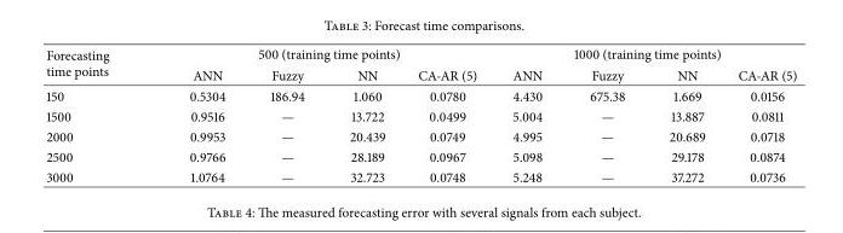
<table><thead><tr><td rowspan="2">Forecasting time points</td><td colspan="4">500 (training time points)</td><td colspan="4">1000 (training time points)</td></tr><tr><td>ANN</td><td>Fuzzy</td><td>NN</td><td>CA-AR (5)</td><td>ANN</td><td>Fuzzy</td><td>NN</td><td>CA-AR (5)</td></tr></thead><tbody><tr><td>150</td><td>0.5304</td><td>186.94</td><td>1.060</td><td>0.0780</td><td>4.430</td><td>675.38</td><td>1.669</td><td>0.0156</td></tr><tr><td>1500</td><td>0.9516</td><td>—</td><td>13.722</td><td>0.0499</td><td>5.004</td><td>—</td><td>13.887</td><td>0.0811</td></tr><tr><td>2000</td><td>0.9953</td><td>—</td><td>20.439</td><td>0.0749</td><td>4.995</td><td>—</td><td>20.689</td><td>0.0718</td></tr><tr><td>2500</td><td>0.9766</td><td>—</td><td>28.189</td><td>0.0967</td><td>5.098</td><td>—</td><td>29.178</td><td>0.0874</td></tr><tr><td>3000</td><td>1.0764</td><td>—</td><td>32.723</td><td>0.0748</td><td>5.248</td><td>—</td><td>37.272</td><td>0.0736</td></tr></tbody></table>